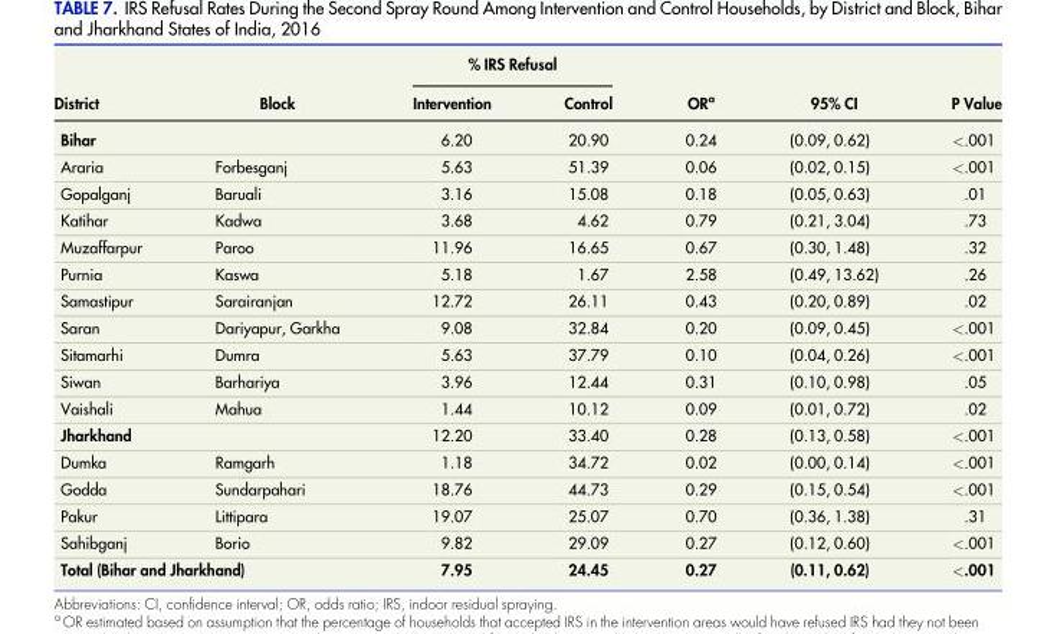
<table><thead><tr><td rowspan="2">District</td><td rowspan="2">Block</td><td colspan="2">% IRS Refusal</td><td rowspan="2">OR<sup>a</sup></td><td rowspan="2">95% CI</td><td rowspan="2">P Value</td></tr><tr><td>Intervention</td><td>Control</td></tr></thead><tbody><tr><td>Bihar</td><td></td><td>6.20</td><td>20.90</td><td>0.24</td><td>(0.09, 0.62)</td><td>&lt;.001</td></tr><tr><td>Araria</td><td>Forbesganj</td><td>5.63</td><td>51.39</td><td>0.06</td><td>(0.02, 0.15)</td><td>&lt;.001</td></tr><tr><td>Gopalganj</td><td>Baruali</td><td>3.16</td><td>15.08</td><td>0.18</td><td>(0.05, 0.63)</td><td>.01</td></tr><tr><td>Katihar</td><td>Kadwa</td><td>3.68</td><td>4.62</td><td>0.79</td><td>(0.21, 3.04)</td><td>.73</td></tr><tr><td>Muzaffarpur</td><td>Paroo</td><td>11.96</td><td>16.65</td><td>0.67</td><td>(0.30, 1.48)</td><td>.32</td></tr><tr><td>Purnia</td><td>Kaswa</td><td>5.18</td><td>1.67</td><td>2.58</td><td>(0.49, 13.62)</td><td>.26</td></tr><tr><td>Samastipur</td><td>Sarairanjan</td><td>12.72</td><td>26.11</td><td>0.43</td><td>(0.20, 0.89)</td><td>.02</td></tr><tr><td>Saran</td><td>Dariyapur, Garkha</td><td>9.08</td><td>32.84</td><td>0.20</td><td>(0.09, 0.45)</td><td>&lt;.001</td></tr><tr><td>Sitamarhi</td><td>Dumra</td><td>5.63</td><td>37.79</td><td>0.10</td><td>(0.04, 0.26)</td><td>&lt;.001</td></tr><tr><td>Siwan</td><td>Barhariya</td><td>3.96</td><td>12.44</td><td>0.31</td><td>(0.10, 0.98)</td><td>.05</td></tr><tr><td>Vaishali</td><td>Mahua</td><td>1.44</td><td>10.12</td><td>0.09</td><td>(0.01, 0.72)</td><td>.02</td></tr><tr><td>Jharkhand</td><td></td><td>12.20</td><td>33.40</td><td>0.28</td><td>(0.13, 0.58)</td><td>&lt;.001</td></tr><tr><td>Dumka</td><td>Ramgarh</td><td>1.18</td><td>34.72</td><td>0.02</td><td>(0.00, 0.14)</td><td>&lt;.001</td></tr><tr><td>Godda</td><td>Sundarpahari</td><td>18.76</td><td>44.73</td><td>0.29</td><td>(0.15, 0.54)</td><td>&lt;.001</td></tr><tr><td>Pakur</td><td>Littipara</td><td>19.07</td><td>25.07</td><td>0.70</td><td>(0.36, 1.38)</td><td>.31</td></tr><tr><td>Sahibganj</td><td>Borio</td><td>9.82</td><td>29.09</td><td>0.27</td><td>(0.12, 0.60)</td><td>&lt;.001</td></tr><tr><td colspan="2">Total (Bihar and Jharkhand)</td><td>7.95</td><td>24.45</td><td>0.27</td><td>(0.11, 0.62)</td><td>&lt;.001</td></tr></tbody></table>